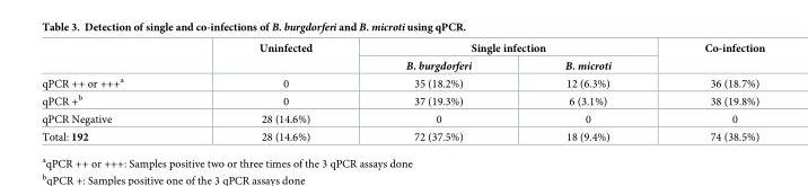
<table><thead><tr><td rowspan="2"></td><td rowspan="2">Uninfected</td><td colspan="2">Single infection</td><td rowspan="2">Co-infection</td></tr><tr><td>B. burgdorferi</td><td>B. microti</td></tr></thead><tbody><tr><td>qPCR ++ or +++<sup>a</sup></td><td>0</td><td>35 (18.2%)</td><td>12 (6.3%)</td><td>36 (18.7%)</td></tr><tr><td>qPCR +<sup>b</sup></td><td>0</td><td>37 (19.3%)</td><td>6 (3.1%)</td><td>38 (19.8%)</td></tr><tr><td>qPCR Negative</td><td>28 (14.6%)</td><td>0</td><td>0</td><td>0</td></tr><tr><td>Total: 192</td><td>28 (14.6%)</td><td>72 (37.5%)</td><td>18 (9.4%)</td><td>74 (38.5%)</td></tr></tbody></table>